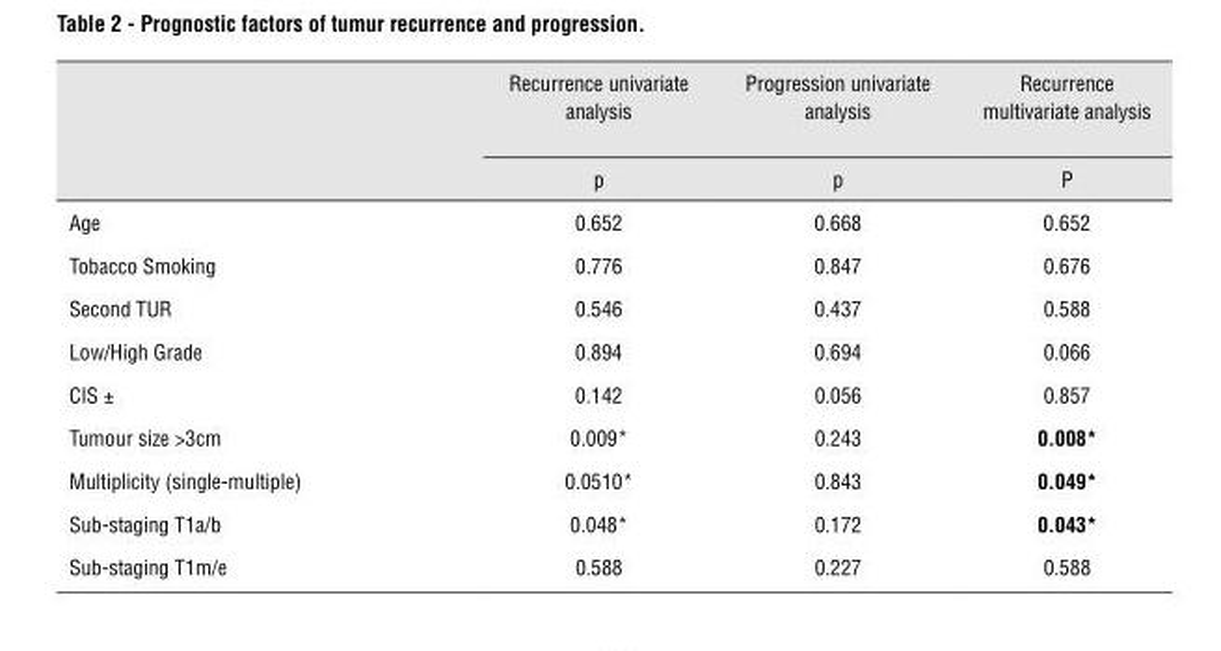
<table><thead><tr><td rowspan="2"></td><td rowspan="2">Recurrence univariate analysis p</td><td rowspan="2">Progression univariate analysis p</td><td rowspan="2">Recurrence multivariate analysis P</td></tr><tr></tr></thead><tbody><tr><td>Age</td><td>0.652</td><td>0.668</td><td>0.652</td></tr><tr><td>Tobacco Smoking</td><td>0.776</td><td>0.847</td><td>0.676</td></tr><tr><td>Second TUR</td><td>0.546</td><td>0.437</td><td>0.588</td></tr><tr><td>Low/High Grade</td><td>0.894</td><td>0.694</td><td>0.066</td></tr><tr><td>CIS ±</td><td>0.142</td><td>0.056</td><td>0.857</td></tr><tr><td>Tumour size &gt;3cm</td><td>0.009*</td><td>0.243</td><td>0.008*</td></tr><tr><td>Multiplicity (single-multiple)</td><td>0.0510*</td><td>0.843</td><td>0.049*</td></tr><tr><td>Sub-staging T1a/b</td><td>0.048*</td><td>0.172</td><td>0.043*</td></tr><tr><td>Sub-staging T1m/e</td><td>0.588</td><td>0.227</td><td>0.588</td></tr></tbody></table>